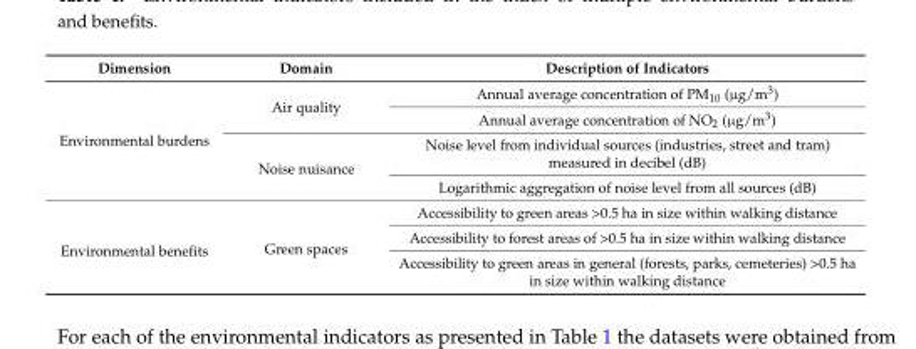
<table><thead><tr><td>Dimension</td><td>Domain</td><td>Description of Indicators</td></tr></thead><tbody><tr><td rowspan="4">Environmental burdens</td><td rowspan="2">Air quality</td><td>Annual average concentration of PM<sub>10</sub> (µg/m<sup>3</sup>)</td></tr><tr><td>Annual average concentration of NO<sub>2</sub> (µg/m<sup>3</sup>)</td></tr><tr><td rowspan="2">Noise nuisance</td><td>Noise level from individual sources (industries, street and tram) measured in decibel (dB)</td></tr><tr><td>Logarithmic aggregation of noise level from all sources (dB)</td></tr><tr><td rowspan="3">Environmental benefits</td><td rowspan="3">Green spaces</td><td>Accessibility to green areas &gt;0.5 ha in size within walking distance</td></tr><tr><td>Accessibility to forest areas of &gt;0.5 ha in size within walking distance</td></tr><tr><td>Accessibility to green areas in general (forests, parks, cemeteries) &gt;0.5 ha in size within walking distance</td></tr></tbody></table>